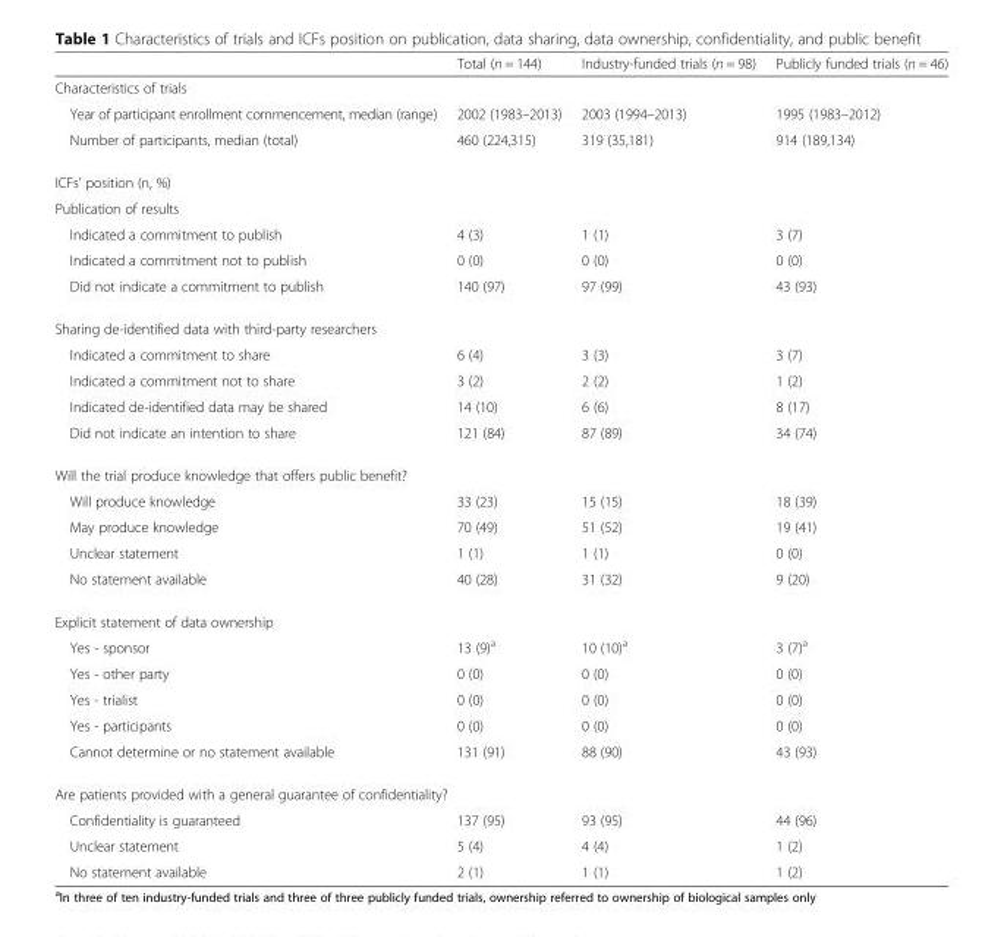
<table><thead><tr><td></td><td>Total (n = 144)</td><td>Industry-funded trials (n = 98)</td><td>Publicly funded trials (n = 46)</td></tr></thead><tbody><tr><td colspan="4">Characteristics of trials</td></tr><tr><td>Year of participant enrollment commencement, median (range)</td><td>2002 (1983–2013)</td><td>2003 (1994–2013)</td><td>1995 (1983–2012)</td></tr><tr><td>Number of participants, median (total)</td><td>460 (224,315)</td><td>319 (35,181)</td><td>914 (189,134)</td></tr><tr><td colspan="4">ICFs’ position (n, %)</td></tr><tr><td colspan="4">Publication of results</td></tr><tr><td>Indicated a commitment to publish</td><td>4 (3)</td><td>1 (1)</td><td>3 (7)</td></tr><tr><td>Indicated a commitment not to publish</td><td>0 (0)</td><td>0 (0)</td><td>0 (0)</td></tr><tr><td>Did not indicate a commitment to publish</td><td>140 (97)</td><td>97 (99)</td><td>43 (93)</td></tr><tr><td colspan="4">Sharing de-identified data with third-party researchers</td></tr><tr><td>Indicated a commitment to share</td><td>6 (4)</td><td>3 (3)</td><td>3 (7)</td></tr><tr><td>Indicated a commitment not to share</td><td>3 (2)</td><td>2 (2)</td><td>1 (2)</td></tr><tr><td>Indicated de-identified data may be shared</td><td>14 (10)</td><td>6 (6)</td><td>8 (17)</td></tr><tr><td>Did not indicate an intention to share</td><td>121 (84)</td><td>87 (89)</td><td>34 (74)</td></tr><tr><td colspan="4">Will the trial produce knowledge that offers public benefit?</td></tr><tr><td>Will produce knowledge</td><td>33 (23)</td><td>15 (15)</td><td>18 (39)</td></tr><tr><td>May produce knowledge</td><td>70 (49)</td><td>51 (52)</td><td>19 (41)</td></tr><tr><td>Unclear statement</td><td>1 (1)</td><td>1 (1)</td><td>0 (0)</td></tr><tr><td>No statement available</td><td>40 (28)</td><td>31 (32)</td><td>9 (20)</td></tr><tr><td colspan="4">Explicit statement of data ownership</td></tr><tr><td>Yes - sponsor</td><td>13 (9)<sup>a</sup></td><td>10 (10)<sup>a</sup></td><td>3 (7)<sup>a</sup></td></tr><tr><td>Yes - other party</td><td>0 (0)</td><td>0 (0)</td><td>0 (0)</td></tr><tr><td>Yes - trialist</td><td>0 (0)</td><td>0 (0)</td><td>0 (0)</td></tr><tr><td>Yes - participants</td><td>0 (0)</td><td>0 (0)</td><td>0 (0)</td></tr><tr><td>Cannot determine or no statement available</td><td>131 (91)</td><td>88 (90)</td><td>43 (93)</td></tr><tr><td colspan="4">Are patients provided with a general guarantee of confidentiality?</td></tr><tr><td>Confidentiality is guaranteed</td><td>137 (95)</td><td>93 (95)</td><td>44 (96)</td></tr><tr><td>Unclear statement</td><td>5 (4)</td><td>4 (4)</td><td>1 (2)</td></tr><tr><td>No statement available</td><td>2 (1)</td><td>1 (1)</td><td>1 (2)</td></tr></tbody></table>